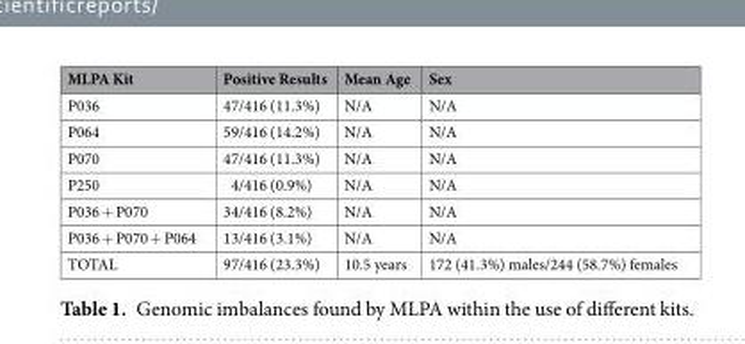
<table><thead><tr><td>MLPA Kit</td><td>Positive Results</td><td>Mean Age</td><td>Sex</td></tr></thead><tbody><tr><td>P036</td><td>47/416 (11.3%)</td><td>N/A</td><td>N/A</td></tr><tr><td>P064</td><td>59/416 (14.2%)</td><td>N/A</td><td>N/A</td></tr><tr><td>P070</td><td>47/416 (11.3%)</td><td>N/A</td><td>N/A</td></tr><tr><td>P250</td><td>4/416 (0.9%)</td><td>N/A</td><td>N/A</td></tr><tr><td>P036 + P070</td><td>34/416 (8.2%)</td><td>N/A</td><td>N/A</td></tr><tr><td>P036 + P070 + P064</td><td>13/416 (3.1%)</td><td>N/A</td><td>N/A</td></tr><tr><td>TOTAL</td><td>97/416 (23.3%)</td><td>10.5 years</td><td>172 (41.3%) males/244 (58.7%) females</td></tr></tbody></table>